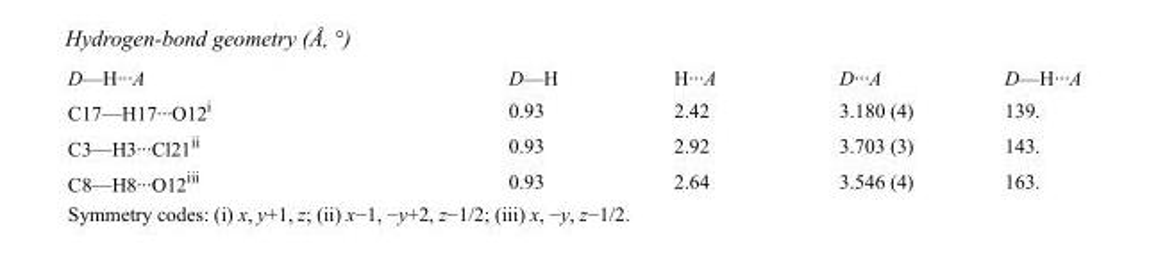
<table><tbody><tr><td>D—H···A</td><td>D—H</td><td>H···A</td><td>D···A</td><td>D—H···A</td></tr><tr><td>C17—H17···O12<sup>i</sup></td><td>0.93</td><td>2.42</td><td>3.180 (4)</td><td>139.</td></tr><tr><td>C3—H3···Cl21<sup>ii</sup></td><td>0.93</td><td>2.92</td><td>3.703 (3)</td><td>143.</td></tr><tr><td>C8—H8···O12<sup>iii</sup></td><td>0.93</td><td>2.64</td><td>3.546 (4)</td><td>163.</td></tr></tbody></table>